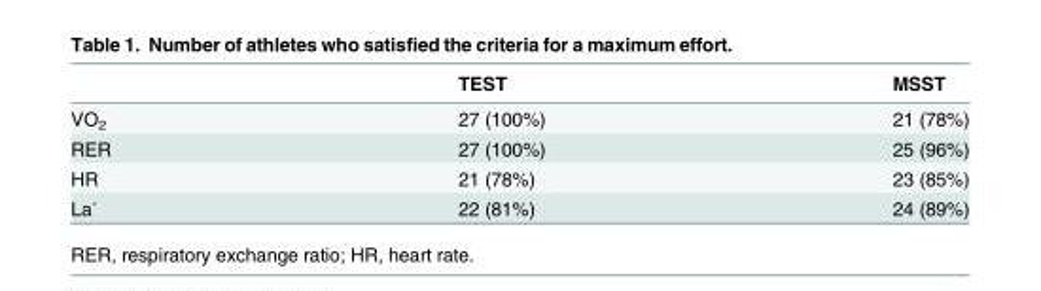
<table><thead><tr><td></td><td>TEST</td><td>MSST</td></tr></thead><tbody><tr><td>VO<sub>2</sub></td><td>27 (100%)</td><td>21 (78%)</td></tr><tr><td>RER</td><td>27 (100%)</td><td>25 (96%)</td></tr><tr><td>HR</td><td>21 (78%)</td><td>23 (85%)</td></tr><tr><td>La<sup>-</sup></td><td>22 (81%)</td><td>24 (89%)</td></tr></tbody></table>